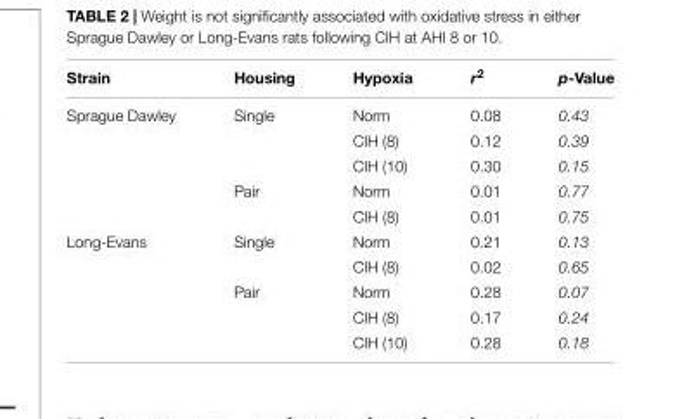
<table><thead><tr><td>Strain</td><td>Housing</td><td>Hypoxia</td><td>r<sup>2</sup></td><td>p-Value</td></tr></thead><tbody><tr><td rowspan="5">Sprague Dawley</td><td>Single</td><td>Norm</td><td>0.08</td><td>0.43</td></tr><tr><td></td><td>CIH (8)</td><td>0.12</td><td>0.39</td></tr><tr><td></td><td>CIH (10)</td><td>0.30</td><td>0.15</td></tr><tr><td>Pair</td><td>Norm</td><td>0.01</td><td>0.77</td></tr><tr><td></td><td>CIH (8)</td><td>0.01</td><td>0.75</td></tr><tr><td rowspan="5">Long-Evans</td><td>Single</td><td>Norm</td><td>0.21</td><td>0.13</td></tr><tr><td></td><td>CIH (8)</td><td>0.02</td><td>0.65</td></tr><tr><td>Pair</td><td>Norm</td><td>0.28</td><td>0.07</td></tr><tr><td></td><td>CIH (8)</td><td>0.17</td><td>0.24</td></tr><tr><td></td><td>CIH (10)</td><td>0.28</td><td>0.18</td></tr></tbody></table>